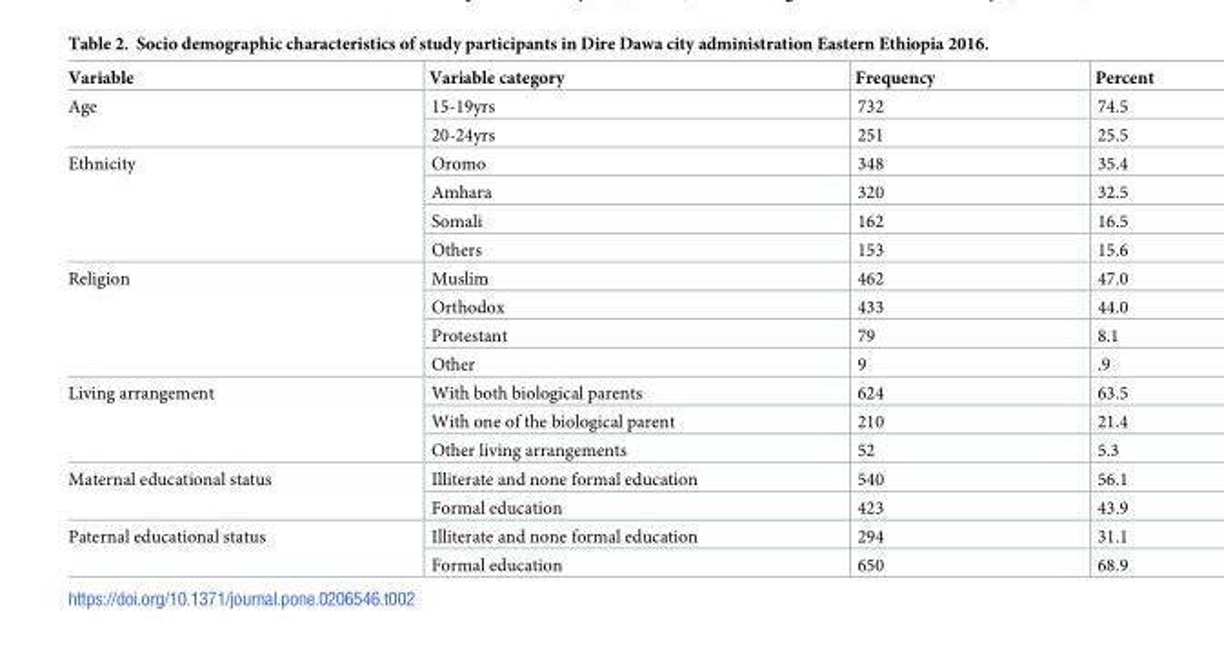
<table><thead><tr><td>Variable</td><td>Variable category</td><td>Frequency</td><td>Percent</td></tr></thead><tbody><tr><td rowspan="2">Age</td><td>15-19yrs</td><td>732</td><td>74.5</td></tr><tr><td>20-24yrs</td><td>251</td><td>25.5</td></tr><tr><td rowspan="4">Ethnicity</td><td>Oromo</td><td>348</td><td>35.4</td></tr><tr><td>Amhara</td><td>320</td><td>32.5</td></tr><tr><td>Somali</td><td>162</td><td>16.5</td></tr><tr><td>Others</td><td>153</td><td>15.6</td></tr><tr><td rowspan="4">Religion</td><td>Muslim</td><td>462</td><td>47.0</td></tr><tr><td>Orthodox</td><td>433</td><td>44.0</td></tr><tr><td>Protestant</td><td>79</td><td>8.1</td></tr><tr><td>Other</td><td>9</td><td>.9</td></tr><tr><td rowspan="3">Living arrangement</td><td>With both biological parents</td><td>624</td><td>63.5</td></tr><tr><td>With one of the biological parent</td><td>210</td><td>21.4</td></tr><tr><td>Other living arrangements</td><td>52</td><td>5.3</td></tr><tr><td rowspan="2">Maternal educational status</td><td>Illiterate and none formal education</td><td>540</td><td>56.1</td></tr><tr><td>Formal education</td><td>423</td><td>43.9</td></tr><tr><td rowspan="2">Paternal educational status</td><td>Illiterate and none formal education</td><td>294</td><td>31.1</td></tr><tr><td>Formal education</td><td>650</td><td>68.9</td></tr></tbody></table>